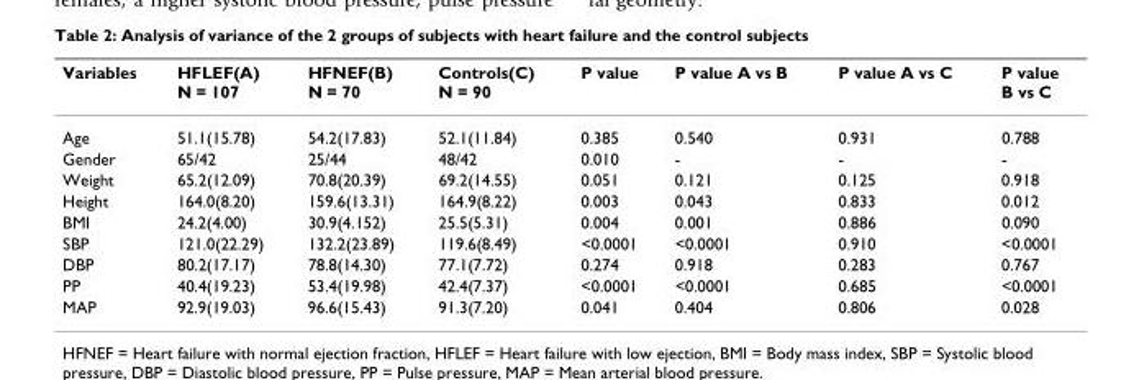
<table><thead><tr><td>Variables</td><td>HFLEF(A) N = 107</td><td>HFNEF(B) N = 70</td><td>Controls(C) N = 90</td><td>P value</td><td>P value A vs B</td><td>P value A vs C</td><td>P value B vs C</td></tr></thead><tbody><tr><td>Age</td><td>51.1(15.78)</td><td>54.2(17.83)</td><td>52.1(11.84)</td><td>0.385</td><td>0.540</td><td>0.931</td><td>0.788</td></tr><tr><td>Gender</td><td>65/42</td><td>25/44</td><td>48/42</td><td>0.010</td><td>-</td><td>-</td><td>-</td></tr><tr><td>Weight</td><td>65.2(12.09)</td><td>70.8(20.39)</td><td>69.2(14.55)</td><td>0.051</td><td>0.121</td><td>0.125</td><td>0.918</td></tr><tr><td>Height</td><td>164.0(8.20)</td><td>159.6(13.31)</td><td>164.9(8.22)</td><td>0.003</td><td>0.043</td><td>0.833</td><td>0.012</td></tr><tr><td>BMI</td><td>24.2(4.00)</td><td>30.9(4.152)</td><td>25.5(5.31)</td><td>0.004</td><td>0.001</td><td>0.886</td><td>0.090</td></tr><tr><td>SBP</td><td>121.0(22.29)</td><td>132.2(23.89)</td><td>119.6(8.49)</td><td>&lt;0.0001</td><td>&lt;0.0001</td><td>0.910</td><td>&lt;0.0001</td></tr><tr><td>DBP</td><td>80.2(17.17)</td><td>78.8(14.30)</td><td>77.1(7.72)</td><td>0.274</td><td>0.918</td><td>0.283</td><td>0.767</td></tr><tr><td>PP</td><td>40.4(19.23)</td><td>53.4(19.98)</td><td>42.4(7.37)</td><td>&lt;0.0001</td><td>&lt;0.0001</td><td>0.685</td><td>&lt;0.0001</td></tr><tr><td>MAP</td><td>92.9(19.03)</td><td>96.6(15.43)</td><td>91.3(7.20)</td><td>0.041</td><td>0.404</td><td>0.806</td><td>0.028</td></tr></tbody></table>